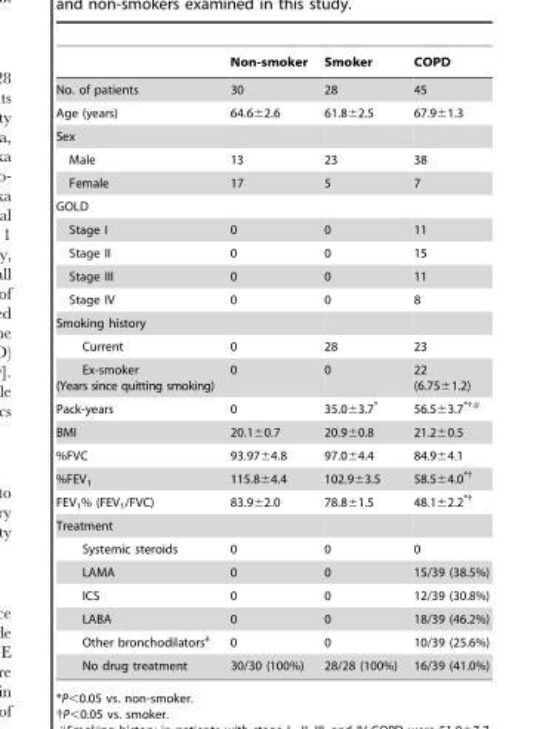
<table><thead><tr><td></td><td>Non-smoker</td><td>Smoker</td><td>COPD</td></tr></thead><tbody><tr><td>No. of patients</td><td>30</td><td>28</td><td>45</td></tr><tr><td>Age (years)</td><td>64.6±2.6</td><td>61.8±2.5</td><td>67.9±1.3</td></tr><tr><td colspan="4">Sex</td></tr><tr><td>Male</td><td>13</td><td>23</td><td>38</td></tr><tr><td>Female</td><td>17</td><td>5</td><td>7</td></tr><tr><td colspan="4">GOLD</td></tr><tr><td>Stage I</td><td>0</td><td>0</td><td>11</td></tr><tr><td>Stage II</td><td>0</td><td>0</td><td>15</td></tr><tr><td>Stage III</td><td>0</td><td>0</td><td>11</td></tr><tr><td>Stage IV</td><td>0</td><td>0</td><td>8</td></tr><tr><td colspan="4">Smoking history</td></tr><tr><td>Current</td><td>0</td><td>28</td><td>23</td></tr><tr><td>Ex-smoker (Years since quitting smoking)</td><td>0</td><td>0</td><td>22 (6.75±1.2)</td></tr><tr><td>Pack-years</td><td>0</td><td>35.0±3.7*</td><td>56.5±3.7*†#</td></tr><tr><td>BMI</td><td>20.1±0.7</td><td>20.9±0.8</td><td>21.2±0.5</td></tr><tr><td>%FVC</td><td>93.97±4.8</td><td>97.0±4.4</td><td>84.9±4.1</td></tr><tr><td>%FEV<sub>1</sub></td><td>115.8±4.4</td><td>102.9±3.5</td><td>58.5±4.0*†</td></tr><tr><td>FEV<sub>1</sub>% (FEV<sub>1</sub>/FVC)</td><td>83.9±2.0</td><td>78.8±1.5</td><td>48.1±2.2*†</td></tr><tr><td colspan="4">Treatment</td></tr><tr><td>Systemic steroids</td><td>0</td><td>0</td><td>0</td></tr><tr><td>LAMA</td><td>0</td><td>0</td><td>15/39 (38.5%)</td></tr><tr><td>ICS</td><td>0</td><td>0</td><td>12/39 (30.8%)</td></tr><tr><td>LABA</td><td>0</td><td>0</td><td>18/39 (46.2%)</td></tr><tr><td>Other bronchodilators<sup>a</sup></td><td>0</td><td>0</td><td>10/39 (25.6%)</td></tr><tr><td>No drug treatment</td><td>30/30 (100%)</td><td>28/28 (100%)</td><td>16/39 (41.0%)</td></tr></tbody></table>